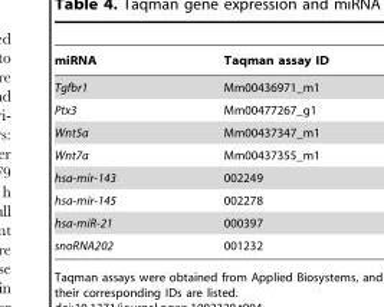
<table><thead><tr><td>miRNA</td><td>Taqman assay ID</td></tr></thead><tbody><tr><td>Tgfbr1</td><td>Mm00436971_m1</td></tr><tr><td>Ptx3</td><td>Mm00477267_g1</td></tr><tr><td>Wnt5a</td><td>Mm00437347_m1</td></tr><tr><td>Wnt7a</td><td>Mm00437355_m1</td></tr><tr><td>hsa-mir-143</td><td>002249</td></tr><tr><td>hsa-mir-145</td><td>002278</td></tr><tr><td>hsa-miR-21</td><td>000397</td></tr><tr><td>snoRNA202</td><td>001232</td></tr></tbody></table>